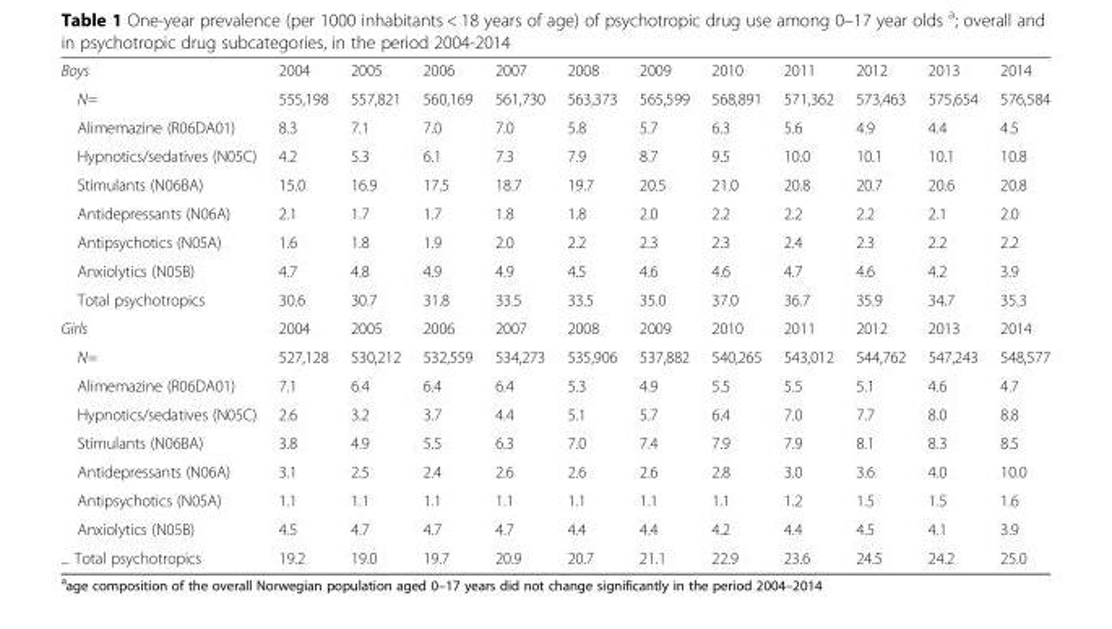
<table><tbody><tr><td>Boys</td><td>2004</td><td>2005</td><td>2006</td><td>2007</td><td>2008</td><td>2009</td><td>2010</td><td>2011</td><td>2012</td><td>2013</td><td>2014</td></tr><tr><td>N=</td><td>555,198</td><td>557,821</td><td>560,169</td><td>561,730</td><td>563,373</td><td>565,599</td><td>568,891</td><td>571,362</td><td>573,463</td><td>575,654</td><td>576,584</td></tr><tr><td>Alimemazine (R06DA01)</td><td>8.3</td><td>7.1</td><td>7.0</td><td>7.0</td><td>5.8</td><td>5.7</td><td>6.3</td><td>5.6</td><td>4.9</td><td>4.4</td><td>4.5</td></tr><tr><td>Hypnotics/sedatives (N05C)</td><td>4.2</td><td>5.3</td><td>6.1</td><td>7.3</td><td>7.9</td><td>8.7</td><td>9.5</td><td>10.0</td><td>10.1</td><td>10.1</td><td>10.8</td></tr><tr><td>Stimulants (N06BA)</td><td>15.0</td><td>16.9</td><td>17.5</td><td>18.7</td><td>19.7</td><td>20.5</td><td>21.0</td><td>20.8</td><td>20.7</td><td>20.6</td><td>20.8</td></tr><tr><td>Antidepressants (N06A)</td><td>2.1</td><td>1.7</td><td>1.7</td><td>1.8</td><td>1.8</td><td>2.0</td><td>2.2</td><td>2.2</td><td>2.2</td><td>2.1</td><td>2.0</td></tr><tr><td>Antipsychotics (N05A)</td><td>1.6</td><td>1.8</td><td>1.9</td><td>2.0</td><td>2.2</td><td>2.3</td><td>2.3</td><td>2.4</td><td>2.3</td><td>2.2</td><td>2.2</td></tr><tr><td>Anxiolytics (N05B)</td><td>4.7</td><td>4.8</td><td>4.9</td><td>4.9</td><td>4.5</td><td>4.6</td><td>4.6</td><td>4.7</td><td>4.6</td><td>4.2</td><td>3.9</td></tr><tr><td>Total psychotropics</td><td>30.6</td><td>30.7</td><td>31.8</td><td>33.5</td><td>33.5</td><td>35.0</td><td>37.0</td><td>36.7</td><td>35.9</td><td>34.7</td><td>35.3</td></tr><tr><td>Girls</td><td>2004</td><td>2005</td><td>2006</td><td>2007</td><td>2008</td><td>2009</td><td>2010</td><td>2011</td><td>2012</td><td>2013</td><td>2014</td></tr><tr><td>N=</td><td>527,128</td><td>530,212</td><td>532,559</td><td>534,273</td><td>535,906</td><td>537,882</td><td>540,265</td><td>543,012</td><td>544,762</td><td>547,243</td><td>548,577</td></tr><tr><td>Alimemazine (R06DA01)</td><td>7.1</td><td>6.4</td><td>6.4</td><td>6.4</td><td>5.3</td><td>4.9</td><td>5.5</td><td>5.5</td><td>5.1</td><td>4.6</td><td>4.7</td></tr><tr><td>Hypnotics/sedatives (N05C)</td><td>2.6</td><td>3.2</td><td>3.7</td><td>4.4</td><td>5.1</td><td>5.7</td><td>6.4</td><td>7.0</td><td>7.7</td><td>8.0</td><td>8.8</td></tr><tr><td>Stimulants (N06BA)</td><td>3.8</td><td>4.9</td><td>5.5</td><td>6.3</td><td>7.0</td><td>7.4</td><td>7.9</td><td>7.9</td><td>8.1</td><td>8.3</td><td>8.5</td></tr><tr><td>Antidepressants (N06A)</td><td>3.1</td><td>2.5</td><td>2.4</td><td>2.6</td><td>2.6</td><td>2.6</td><td>2.8</td><td>3.0</td><td>3.6</td><td>4.0</td><td>10.0</td></tr><tr><td>Antipsychotics (N05A)</td><td>1.1</td><td>1.1</td><td>1.1</td><td>1.1</td><td>1.1</td><td>1.1</td><td>1.1</td><td>1.2</td><td>1.5</td><td>1.5</td><td>1.6</td></tr><tr><td>Anxiolytics (N05B)</td><td>4.5</td><td>4.7</td><td>4.7</td><td>4.7</td><td>4.4</td><td>4.4</td><td>4.2</td><td>4.4</td><td>4.5</td><td>4.1</td><td>3.9</td></tr><tr><td>... Total psychotropics</td><td>19.2</td><td>19.0</td><td>19.7</td><td>20.9</td><td>20.7</td><td>21.1</td><td>22.9</td><td>23.6</td><td>24.5</td><td>24.2</td><td>25.0</td></tr></tbody></table>